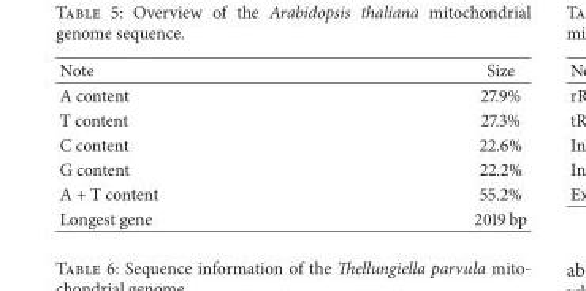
<table><thead><tr><td>Note</td><td>Size</td></tr></thead><tbody><tr><td>A content</td><td>27.9%</td></tr><tr><td>T content</td><td>27.3%</td></tr><tr><td>C content</td><td>22.6%</td></tr><tr><td>G content</td><td>22.2%</td></tr><tr><td>A + T content</td><td>55.2%</td></tr><tr><td>Longest gene</td><td>2019 bp</td></tr></tbody></table>